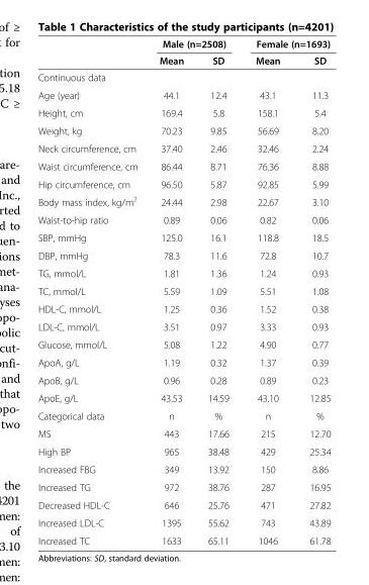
<table><thead><tr><td rowspan="2"></td><td colspan="2">Male (n=2508)</td><td colspan="2">Female (n=1693)</td></tr><tr><td>Mean</td><td>SD</td><td>Mean</td><td>SD</td></tr></thead><tbody><tr><td colspan="5">Continuous data</td></tr><tr><td>Age (year)</td><td>44.1</td><td>12.4</td><td>43.1</td><td>11.3</td></tr><tr><td>Height, cm</td><td>169.4</td><td>5.8</td><td>158.1</td><td>5.4</td></tr><tr><td>Weight, kg</td><td>70.23</td><td>9.85</td><td>56.69</td><td>8.20</td></tr><tr><td>Neck circumference, cm</td><td>37.40</td><td>2.46</td><td>32.46</td><td>2.24</td></tr><tr><td>Waist circumference, cm</td><td>86.44</td><td>8.71</td><td>76.36</td><td>8.88</td></tr><tr><td>Hip circumference, cm</td><td>96.50</td><td>5.87</td><td>92.85</td><td>5.99</td></tr><tr><td>Body mass index, kg/m<sup>2</sup></td><td>24.44</td><td>2.98</td><td>22.67</td><td>3.10</td></tr><tr><td>Waist-to-hip ratio</td><td>0.89</td><td>0.06</td><td>0.82</td><td>0.06</td></tr><tr><td>SBP, mmHg</td><td>125.0</td><td>16.1</td><td>118.8</td><td>18.5</td></tr><tr><td>DBP, mmHg</td><td>78.3</td><td>11.6</td><td>72.8</td><td>10.7</td></tr><tr><td>TG, mmol/L</td><td>1.81</td><td>1.36</td><td>1.24</td><td>0.93</td></tr><tr><td>TC, mmol/L</td><td>5.59</td><td>1.09</td><td>5.51</td><td>1.08</td></tr><tr><td>HDL-C, mmol/L</td><td>1.25</td><td>0.36</td><td>1.52</td><td>0.38</td></tr><tr><td>LDL-C, mmol/L</td><td>3.51</td><td>0.97</td><td>3.33</td><td>0.93</td></tr><tr><td>Glucose, mmol/L</td><td>5.08</td><td>1.22</td><td>4.90</td><td>0.77</td></tr><tr><td>ApoA, g/L</td><td>1.19</td><td>0.32</td><td>1.37</td><td>0.39</td></tr><tr><td>ApoB, g/L</td><td>0.96</td><td>0.28</td><td>0.89</td><td>0.23</td></tr><tr><td>ApoE, g/L</td><td>43.53</td><td>14.59</td><td>43.10</td><td>12.85</td></tr><tr><td>Categorical data</td><td>n</td><td>%</td><td>n</td><td>%</td></tr><tr><td>MS</td><td>443</td><td>17.66</td><td>215</td><td>12.70</td></tr><tr><td>High BP</td><td>965</td><td>38.48</td><td>429</td><td>25.34</td></tr><tr><td>Increased FBG</td><td>349</td><td>13.92</td><td>150</td><td>8.86</td></tr><tr><td>Increased TG</td><td>972</td><td>38.76</td><td>287</td><td>16.95</td></tr><tr><td>Decreased HDL-C</td><td>646</td><td>25.76</td><td>471</td><td>27.82</td></tr><tr><td>Increased LDL-C</td><td>1395</td><td>55.62</td><td>743</td><td>43.89</td></tr><tr><td>Increased TC</td><td>1633</td><td>65.11</td><td>1046</td><td>61.78</td></tr></tbody></table>